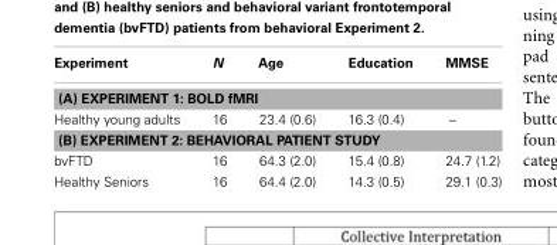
<table><thead><tr><td>Experiment</td><td>N</td><td>Age</td><td>Education</td><td>MMSE</td></tr></thead><tbody><tr><td colspan="5">(A) EXPERIMENT 1: BOLD fMRI</td></tr><tr><td>Healthy young adults</td><td>16</td><td>23.4 (0.6)</td><td>16.3 (0.4)</td><td>–</td></tr><tr><td colspan="5">(B) EXPERIMENT 2: BEHAVIORAL PATIENT STUDY</td></tr><tr><td>bvFTD</td><td>16</td><td>64.3 (2.0)</td><td>15.4 (0.8)</td><td>24.7 (1.2)</td></tr><tr><td>Healthy Seniors</td><td>16</td><td>64.4 (2.0)</td><td>14.3 (0.5)</td><td>29.1 (0.3)</td></tr></tbody></table>